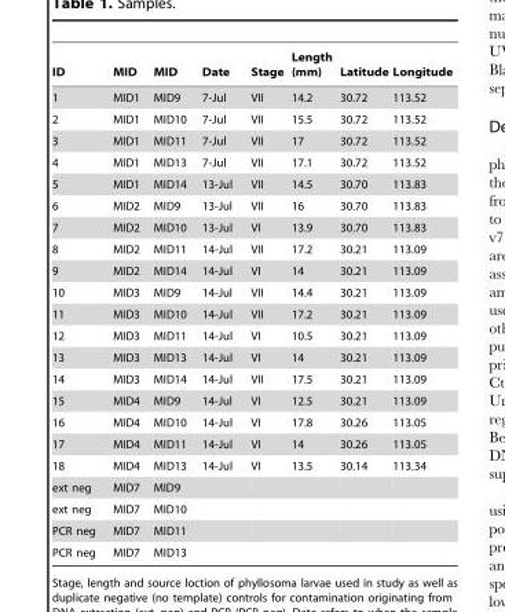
<table><thead><tr><td>ID</td><td>MID</td><td>MID</td><td>Date</td><td>Stage</td><td>Length (mm)</td><td>Latitude</td><td>Longitude</td></tr></thead><tbody><tr><td>1</td><td>MID1</td><td>MID9</td><td>7-Jul</td><td>VII</td><td>14.2</td><td>30.72</td><td>113.52</td></tr><tr><td>2</td><td>MID1</td><td>MID10</td><td>7-Jul</td><td>VII</td><td>15.5</td><td>30.72</td><td>113.52</td></tr><tr><td>3</td><td>MID1</td><td>MID11</td><td>7-Jul</td><td>VII</td><td>17</td><td>30.72</td><td>113.52</td></tr><tr><td>4</td><td>MID1</td><td>MID13</td><td>7-Jul</td><td>VII</td><td>17.1</td><td>30.72</td><td>113.52</td></tr><tr><td>5</td><td>MID1</td><td>MID14</td><td>13-Jul</td><td>VII</td><td>14.5</td><td>30.70</td><td>113.83</td></tr><tr><td>6</td><td>MID2</td><td>MID9</td><td>13-Jul</td><td>VII</td><td>16</td><td>30.70</td><td>113.83</td></tr><tr><td>7</td><td>MID2</td><td>MID10</td><td>13-Jul</td><td>VI</td><td>13.9</td><td>30.70</td><td>113.83</td></tr><tr><td>8</td><td>MID2</td><td>MID11</td><td>14-Jul</td><td>VII</td><td>17.2</td><td>30.21</td><td>113.09</td></tr><tr><td>9</td><td>MID2</td><td>MID14</td><td>14-Jul</td><td>VI</td><td>14</td><td>30.21</td><td>113.09</td></tr><tr><td>10</td><td>MID3</td><td>MID9</td><td>14-Jul</td><td>VII</td><td>14.4</td><td>30.21</td><td>113.09</td></tr><tr><td>11</td><td>MID3</td><td>MID10</td><td>14-Jul</td><td>VII</td><td>17.2</td><td>30.21</td><td>113.09</td></tr><tr><td>12</td><td>MID3</td><td>MID11</td><td>14-Jul</td><td>VI</td><td>10.5</td><td>30.21</td><td>113.09</td></tr><tr><td>13</td><td>MID3</td><td>MID13</td><td>14-Jul</td><td>VI</td><td>14</td><td>30.21</td><td>113.09</td></tr><tr><td>14</td><td>MID3</td><td>MID14</td><td>14-Jul</td><td>VII</td><td>17.5</td><td>30.21</td><td>113.09</td></tr><tr><td>15</td><td>MID4</td><td>MID9</td><td>14-Jul</td><td>VI</td><td>12.5</td><td>30.21</td><td>113.09</td></tr><tr><td>16</td><td>MID4</td><td>MID10</td><td>14-Jul</td><td>VI</td><td>17.8</td><td>30.26</td><td>113.05</td></tr><tr><td>17</td><td>MID4</td><td>MID11</td><td>14-Jul</td><td>VI</td><td>14</td><td>30.26</td><td>113.05</td></tr><tr><td>18</td><td>MID4</td><td>MID13</td><td>14-Jul</td><td>VI</td><td>13.5</td><td>30.14</td><td>113.34</td></tr><tr><td>ext neg</td><td>MID7</td><td>MID9</td><td></td><td></td><td></td><td></td><td></td></tr><tr><td>ext neg</td><td>MID7</td><td>MID10</td><td></td><td></td><td></td><td></td><td></td></tr><tr><td>PCR neg</td><td>MID7</td><td>MID11</td><td></td><td></td><td></td><td></td><td></td></tr><tr><td>PCR neg</td><td>MID7</td><td>MID13</td><td></td><td></td><td></td><td></td><td></td></tr></tbody></table>